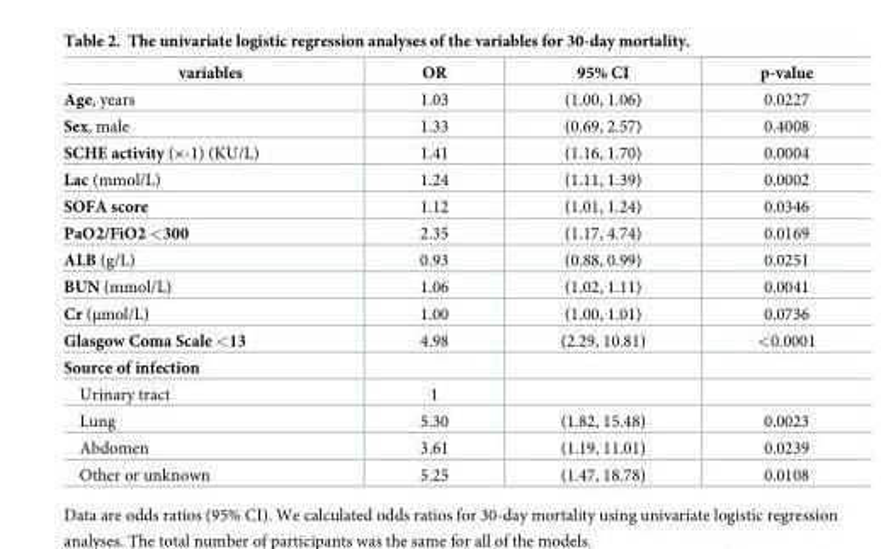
<table><thead><tr><td>variables</td><td>OR</td><td>95% CI</td><td>p-value</td></tr></thead><tbody><tr><td>Age, years</td><td>1.03</td><td>(1.00, 1.06)</td><td>0.0227</td></tr><tr><td>Sex, male</td><td>1.33</td><td>(0.69, 2.57)</td><td>0.4008</td></tr><tr><td>SCHE activity (×-1) (KU/L)</td><td>1.41</td><td>(1.16, 1.70)</td><td>0.0004</td></tr><tr><td>Lac (mmol/L)</td><td>1.24</td><td>(1.11, 1.39)</td><td>0.0002</td></tr><tr><td>SOFA score</td><td>1.12</td><td>(1.01, 1.24)</td><td>0.0346</td></tr><tr><td>PaO2/FiO2 &lt;300</td><td>2.35</td><td>(1.17, 4.74)</td><td>0.0169</td></tr><tr><td>ALB (g/L)</td><td>0.93</td><td>(0.88, 0.99)</td><td>0.0251</td></tr><tr><td>BUN (mmol/L)</td><td>1.06</td><td>(1.02, 1.11)</td><td>0.0041</td></tr><tr><td>Cr (μmol/L)</td><td>1.00</td><td>(1.00, 1.01)</td><td>0.0736</td></tr><tr><td>Glasgow Coma Scale &lt;13</td><td>4.98</td><td>(2.29, 10.81)</td><td>&lt;0.0001</td></tr><tr><td colspan="4">Source of infection</td></tr><tr><td>Urinary tract</td><td>1</td><td></td><td></td></tr><tr><td>Lung</td><td>5.30</td><td>(1.82, 15.48)</td><td>0.0023</td></tr><tr><td>Abdomen</td><td>3.61</td><td>(1.19, 11.01)</td><td>0.0239</td></tr><tr><td>Other or unknown</td><td>5.25</td><td>(1.47, 18.78)</td><td>0.0108</td></tr></tbody></table>